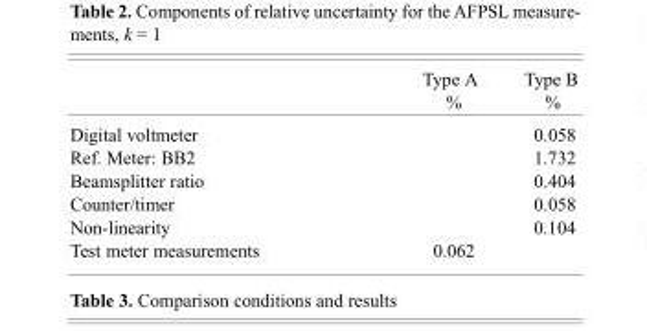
<table><thead><tr><td></td><td>Type A %</td><td>Type B %</td></tr></thead><tbody><tr><td>Digital voltmeter</td><td></td><td>0.058</td></tr><tr><td>Ref. Meter: BB2</td><td></td><td>1.732</td></tr><tr><td>Beamsplitter ratio</td><td></td><td>0.404</td></tr><tr><td>Counter/timer</td><td></td><td>0.058</td></tr><tr><td>Non-linearity</td><td></td><td>0.104</td></tr><tr><td>Test meter measurements</td><td>0.062</td><td></td></tr></tbody></table>